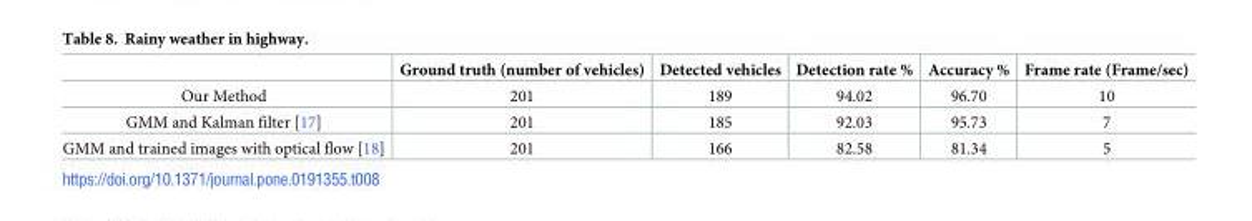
<table><thead><tr><td></td><td>Ground truth (number of vehicles)</td><td>Detected vehicles</td><td>Detection rate %</td><td>Accuracy %</td><td>Frame rate (Frame/sec)</td></tr></thead><tbody><tr><td>Our Method</td><td>201</td><td>189</td><td>94.02</td><td>96.70</td><td>10</td></tr><tr><td>GMM and Kalman filter [17]</td><td>201</td><td>185</td><td>92.03</td><td>95.73</td><td>7</td></tr><tr><td>GMM and trained images with optical flow [18]</td><td>201</td><td>166</td><td>82.58</td><td>81.34</td><td>5</td></tr></tbody></table>